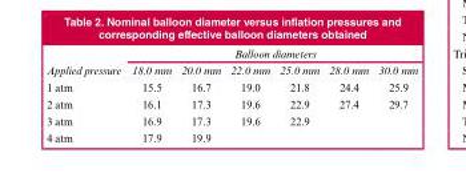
<table><thead><tr><td rowspan="2">Applied pressure</td><td colspan="6">Balloon diameters</td></tr><tr><td>18.0 mm</td><td>20.0 mm</td><td>22.0 mm</td><td>25.0 mm</td><td>28.0 mm</td><td>30.0 mm</td></tr></thead><tbody><tr><td>1 atm</td><td>15.5</td><td>16.7</td><td>19.0</td><td>21.8</td><td>24.4</td><td>25.9</td></tr><tr><td>2 atm</td><td>16.1</td><td>17.3</td><td>19.6</td><td>22.9</td><td>27.4</td><td>29.7</td></tr><tr><td>3 atm</td><td>16.9</td><td>17.3</td><td>19.6</td><td>22.9</td><td></td><td></td></tr><tr><td>4 atm</td><td>17.9</td><td>19.9</td><td></td><td></td><td></td><td></td></tr></tbody></table>